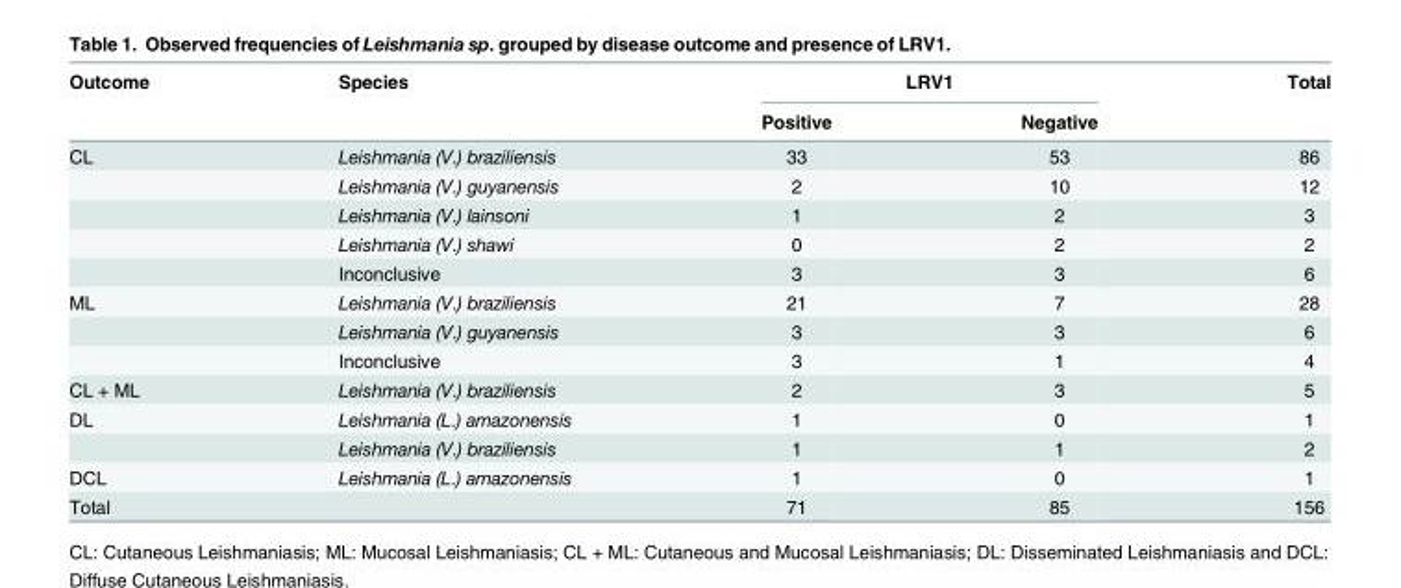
<table><thead><tr><td rowspan="2">Outcome</td><td rowspan="2">Species</td><td colspan="2">LRV1</td><td rowspan="2">Total</td></tr><tr><td>Positive</td><td>Negative</td></tr></thead><tbody><tr><td rowspan="5">CL</td><td>Leishmania (V.) braziliensis</td><td>33</td><td>53</td><td>86</td></tr><tr><td>Leishmania (V.) guyanensis</td><td>2</td><td>10</td><td>12</td></tr><tr><td>Leishmania (V.) lainsoni</td><td>1</td><td>2</td><td>3</td></tr><tr><td>Leishmania (V.) shawi</td><td>0</td><td>2</td><td>2</td></tr><tr><td>Inconclusive</td><td>3</td><td>3</td><td>6</td></tr><tr><td rowspan="3">ML</td><td>Leishmania (V.) braziliensis</td><td>21</td><td>7</td><td>28</td></tr><tr><td>Leishmania (V.) guyanensis</td><td>3</td><td>3</td><td>6</td></tr><tr><td>Inconclusive</td><td>3</td><td>1</td><td>4</td></tr><tr><td>CL + ML</td><td>Leishmania (V.) braziliensis</td><td>2</td><td>3</td><td>5</td></tr><tr><td rowspan="2">DL</td><td>Leishmania (L.) amazonensis</td><td>1</td><td>0</td><td>1</td></tr><tr><td>Leishmania (V.) braziliensis</td><td>1</td><td>1</td><td>2</td></tr><tr><td>DCL</td><td>Leishmania (L.) amazonensis</td><td>1</td><td>0</td><td>1</td></tr><tr><td>Total</td><td></td><td>71</td><td>85</td><td>156</td></tr></tbody></table>